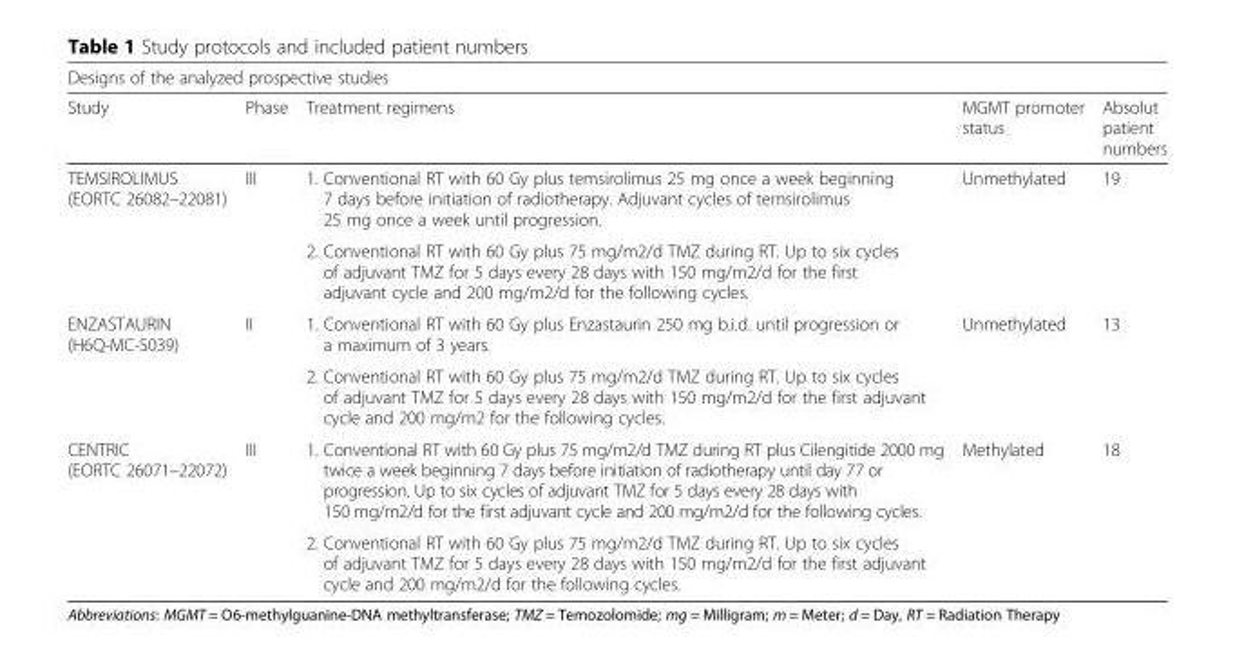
<table><thead><tr><td colspan="5">Designs of the analyzed prospective studies</td></tr><tr><td>Study</td><td>Phase</td><td>Treatment regimens</td><td>MGMT promoter status</td><td>Absolut patient numbers</td></tr></thead><tbody><tr><td rowspan="2">TEMSIROLIMUS (EORTC 26082–22081)</td><td rowspan="2">III</td><td>1. Conventional RT with 60 Gy plus temsirolimus 25 mg once a week beginning 7 days before initiation of radiotherapy. Adjuvant cycles of temsirolimus 25 mg once a week until progression.</td><td rowspan="2">Unmethylated</td><td rowspan="2">19</td></tr><tr><td>2. Conventional RT with 60 Gy plus 75 mg/m2/d TMZ during RT. Up to six cycles of adjuvant TMZ for 5 days every 28 days with 150 mg/m2/d for the first adjuvant cycle and 200 mg/m2/d for the following cycles.</td></tr><tr><td rowspan="2">ENZASTAURIN (H6Q-MC-S039)</td><td rowspan="2">II</td><td>1. Conventional RT with 60 Gy plus Enzastaurin 250 mg b.i.d. until progression or a maximum of 3 years.</td><td rowspan="2">Unmethylated</td><td rowspan="2">13</td></tr><tr><td>2. Conventional RT with 60 Gy plus 75 mg/m2/d TMZ during RT. Up to six cycles of adjuvant TMZ for 5 days every 28 days with 150 mg/m2/d for the first adjuvant cycle and 200 mg/m2 for the following cycles.</td></tr><tr><td rowspan="2">CENTRIC (EORTC 26071–22072)</td><td rowspan="2">III</td><td>1. Conventional RT with 60 Gy plus 75 mg/m2/d TMZ during RT plus Cilengitide 2000 mg twice a week beginning 7 days before initiation of radiotherapy until day 77 or progression. Up to six cycles of adjuvant TMZ for 5 days every 28 days with 150 mg/m2/d for the first adjuvant cycle and 200 mg/m2/d for the following cycles.</td><td rowspan="2">Methylated</td><td rowspan="2">18</td></tr><tr><td>2. Conventional RT with 60 Gy plus 75 mg/m2/d TMZ during RT. Up to six cycles of adjuvant TMZ for 5 days every 28 days with 150 mg/m2/d for the first adjuvant cycle and 200 mg/m2/d for the following cycles.</td></tr></tbody></table>